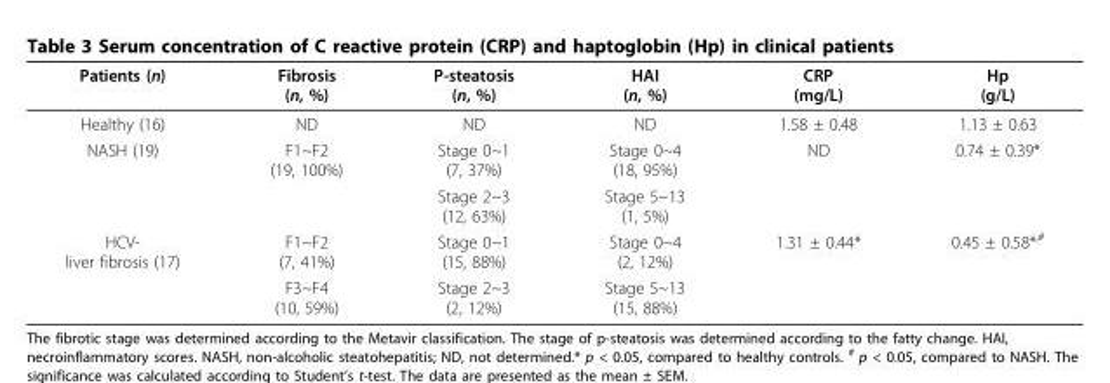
<table><thead><tr><td>Patients (n)</td><td>Fibrosis (n, %)</td><td>P-steatosis (n, %)</td><td>HAI (n, %)</td><td>CRP (mg/L)</td><td>Hp (g/L)</td></tr></thead><tbody><tr><td>Healthy (16)</td><td>ND</td><td>ND</td><td>ND</td><td>1.58 ± 0.48</td><td>1.13 ± 0.63</td></tr><tr><td rowspan="2">NASH (19)</td><td>F1~F2 (19, 100%)</td><td>Stage 0~1 (7, 37%)</td><td>Stage 0~4 (18, 95%)</td><td>ND</td><td>0.74 ± 0.39*</td></tr><tr><td></td><td>Stage 2~3 (12, 63%)</td><td>Stage 5~13 (1, 5%)</td><td></td><td></td></tr><tr><td rowspan="2">HCV- liver fibrosis (17)</td><td>F1~F2 (7, 41%)</td><td>Stage 0~1 (15, 88%)</td><td>Stage 0~4 (2, 12%)</td><td>1.31 ± 0.44*</td><td>0.45 ± 0.58*<sup>,#</sup></td></tr><tr><td>F3~F4 (10, 59%)</td><td>Stage 2~3 (2, 12%)</td><td>Stage 5~13 (15, 88%)</td><td></td><td></td></tr></tbody></table>